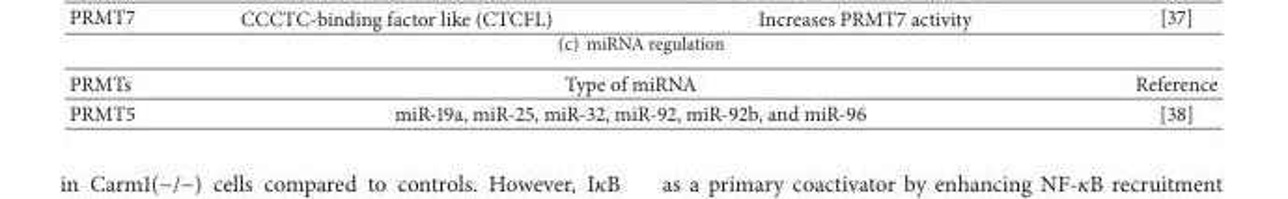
<table><thead><tr><td>PRMTs</td><td>Type of miRNA</td><td>Reference</td></tr></thead><tbody><tr><td>PRMT5</td><td>miR-19a, miR-25, miR-32, miR-92, miR-92b, and miR-96</td><td>[38]</td></tr></tbody></table>